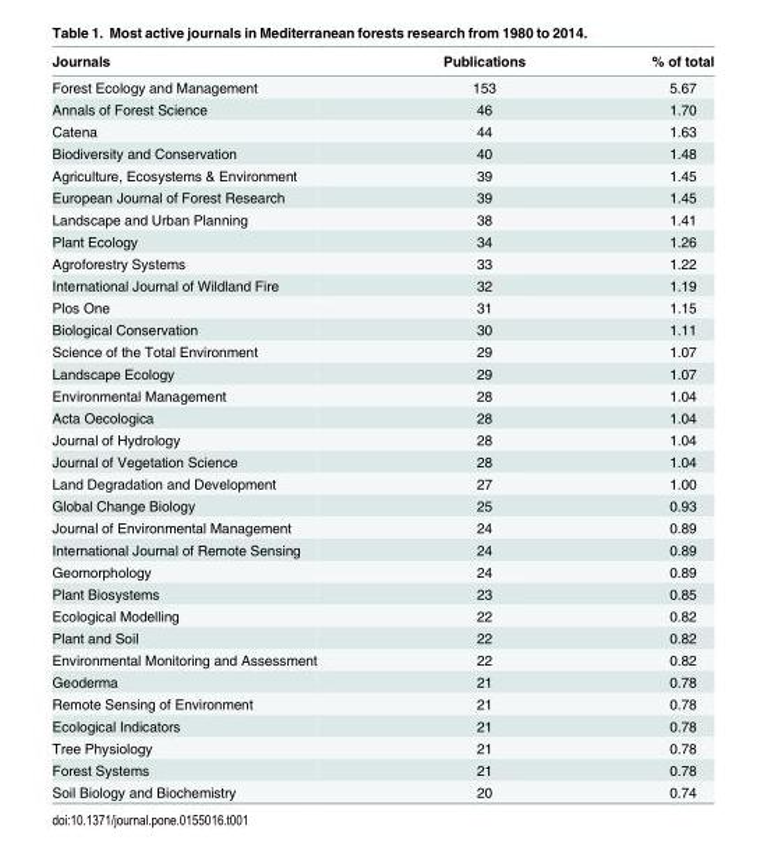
<table><thead><tr><td>Journals</td><td>Publications</td><td>% of total</td></tr></thead><tbody><tr><td>Forest Ecology and Management</td><td>153</td><td>5.67</td></tr><tr><td>Annals of Forest Science</td><td>46</td><td>1.70</td></tr><tr><td>Catena</td><td>44</td><td>1.63</td></tr><tr><td>Biodiversity and Conservation</td><td>40</td><td>1.48</td></tr><tr><td>Agriculture, Ecosystems &amp; Environment</td><td>39</td><td>1.45</td></tr><tr><td>European Journal of Forest Research</td><td>39</td><td>1.45</td></tr><tr><td>Landscape and Urban Planning</td><td>38</td><td>1.41</td></tr><tr><td>Plant Ecology</td><td>34</td><td>1.26</td></tr><tr><td>Agroforestry Systems</td><td>33</td><td>1.22</td></tr><tr><td>International Journal of Wildland Fire</td><td>32</td><td>1.19</td></tr><tr><td>Plos One</td><td>31</td><td>1.15</td></tr><tr><td>Biological Conservation</td><td>30</td><td>1.11</td></tr><tr><td>Science of the Total Environment</td><td>29</td><td>1.07</td></tr><tr><td>Landscape Ecology</td><td>29</td><td>1.07</td></tr><tr><td>Environmental Management</td><td>28</td><td>1.04</td></tr><tr><td>Acta Oecologica</td><td>28</td><td>1.04</td></tr><tr><td>Journal of Hydrology</td><td>28</td><td>1.04</td></tr><tr><td>Journal of Vegetation Science</td><td>28</td><td>1.04</td></tr><tr><td>Land Degradation and Development</td><td>27</td><td>1.00</td></tr><tr><td>Global Change Biology</td><td>25</td><td>0.93</td></tr><tr><td>Journal of Environmental Management</td><td>24</td><td>0.89</td></tr><tr><td>International Journal of Remote Sensing</td><td>24</td><td>0.89</td></tr><tr><td>Geomorphology</td><td>24</td><td>0.89</td></tr><tr><td>Plant Biosystems</td><td>23</td><td>0.85</td></tr><tr><td>Ecological Modelling</td><td>22</td><td>0.82</td></tr><tr><td>Plant and Soil</td><td>22</td><td>0.82</td></tr><tr><td>Environmental Monitoring and Assessment</td><td>22</td><td>0.82</td></tr><tr><td>Geoderma</td><td>21</td><td>0.78</td></tr><tr><td>Remote Sensing of Environment</td><td>21</td><td>0.78</td></tr><tr><td>Ecological Indicators</td><td>21</td><td>0.78</td></tr><tr><td>Tree Physiology</td><td>21</td><td>0.78</td></tr><tr><td>Forest Systems</td><td>21</td><td>0.78</td></tr><tr><td>Soil Biology and Biochemistry</td><td>20</td><td>0.74</td></tr></tbody></table>